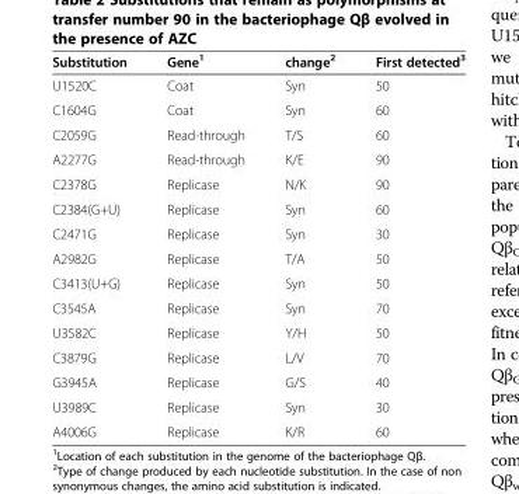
<table><thead><tr><td>Substitution</td><td>Gene<sup>1</sup></td><td>change<sup>2</sup></td><td>First detected<sup>3</sup></td></tr></thead><tbody><tr><td>U1520C</td><td>Coat</td><td>Syn</td><td>50</td></tr><tr><td>C1604G</td><td>Coat</td><td>Syn</td><td>60</td></tr><tr><td>C2059G</td><td>Read-through</td><td>T/S</td><td>60</td></tr><tr><td>A2277G</td><td>Read-through</td><td>K/E</td><td>90</td></tr><tr><td>C2378G</td><td>Replicase</td><td>N/K</td><td>90</td></tr><tr><td>C2384(G+U)</td><td>Replicase</td><td>Syn</td><td>60</td></tr><tr><td>C2471G</td><td>Replicase</td><td>Syn</td><td>30</td></tr><tr><td>A2982G</td><td>Replicase</td><td>T/A</td><td>50</td></tr><tr><td>C3413(U+G)</td><td>Replicase</td><td>Syn</td><td>50</td></tr><tr><td>C3545A</td><td>Replicase</td><td>Syn</td><td>70</td></tr><tr><td>U3582C</td><td>Replicase</td><td>Y/H</td><td>50</td></tr><tr><td>C3879G</td><td>Replicase</td><td>L/V</td><td>70</td></tr><tr><td>G3945A</td><td>Replicase</td><td>G/S</td><td>40</td></tr><tr><td>U3989C</td><td>Replicase</td><td>Syn</td><td>30</td></tr><tr><td>A4006G</td><td>Replicase</td><td>K/R</td><td>60</td></tr></tbody></table>